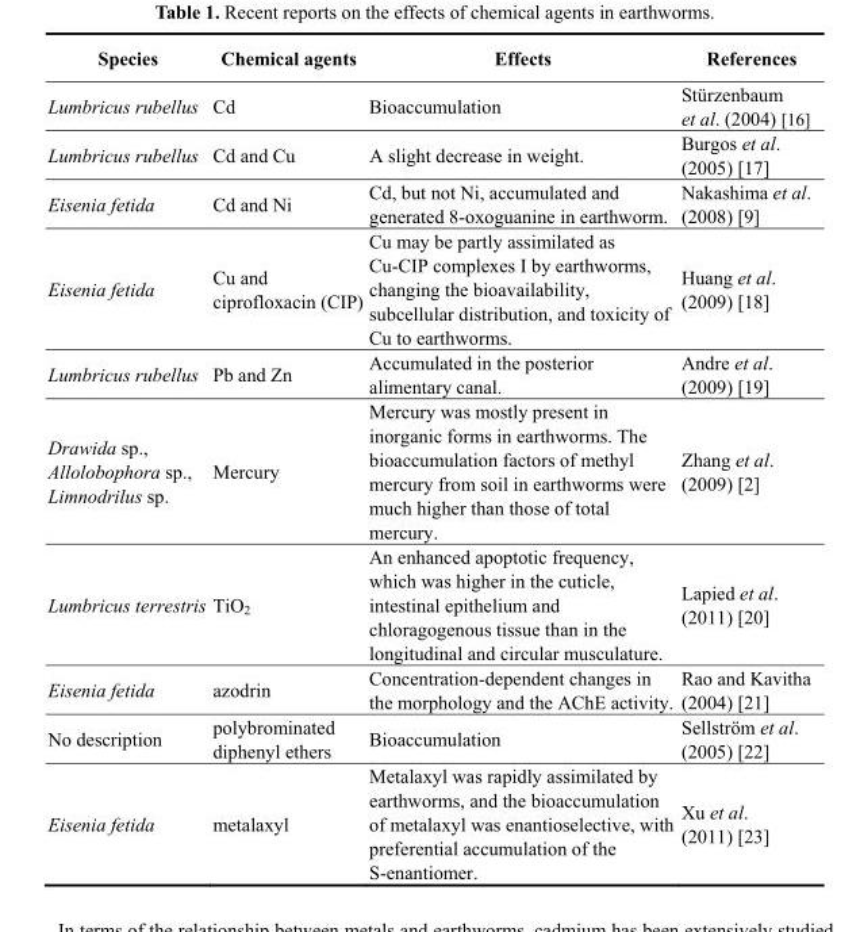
<table><thead><tr><td>Species</td><td>Chemical agents</td><td>Effects</td><td>References</td></tr></thead><tbody><tr><td>Lumbricus rubellus</td><td>Cd</td><td>Bioaccumulation</td><td>Stürzenbaum et al. (2004) [16]</td></tr><tr><td>Lumbricus rubellus</td><td>Cd and Cu</td><td>A slight decrease in weight.</td><td>Burgos et al. (2005) [17]</td></tr><tr><td>Eisenia fetida</td><td>Cd and Ni</td><td>Cd, but not Ni, accumulated and generated 8-oxoguanine in earthworm.</td><td>Nakashima et al. (2008) [9]</td></tr><tr><td>Eisenia fetida</td><td>Cu and ciprofloxacin (CIP)</td><td>Cu may be partly assimilated as Cu-CIP complexes I by earthworms, changing the bioavailability, subcellular distribution, and toxicity of Cu to earthworms.</td><td>Huang et al. (2009) [18]</td></tr><tr><td>Lumbricus rubellus</td><td>Pb and Zn</td><td>Accumulated in the posterior alimentary canal.</td><td>Andre et al. (2009) [19]</td></tr><tr><td>Drawida sp., Allolobophora sp., Limnodrilus sp.</td><td>Mercury</td><td>Mercury was mostly present in inorganic forms in earthworms. The bioaccumulation factors of methyl mercury from soil in earthworms were much higher than those of total mercury.</td><td>Zhang et al. (2009) [2]</td></tr><tr><td>Lumbricus terrestris</td><td>TiO<sub>2</sub></td><td>An enhanced apoptotic frequency, which was higher in the cuticle, intestinal epithelium and chloragogenous tissue than in the longitudinal and circular musculature.</td><td>Lapied et al. (2011) [20]</td></tr><tr><td>Eisenia fetida</td><td>azodrin</td><td>Concentration-dependent changes in the morphology and the AChE activity.</td><td>Rao and Kavitha (2004) [21]</td></tr><tr><td>No description</td><td>polybrominated diphenyl ethers</td><td>Bioaccumulation</td><td>Sellström et al. (2005) [22]</td></tr><tr><td>Eisenia fetida</td><td>metalaxyl</td><td>Metalaxyl was rapidly assimilated by earthworms, and the bioaccumulation of metalaxyl was enantioselective, with preferential accumulation of the S-enantiomer.</td><td>Xu et al. (2011) [23]</td></tr></tbody></table>